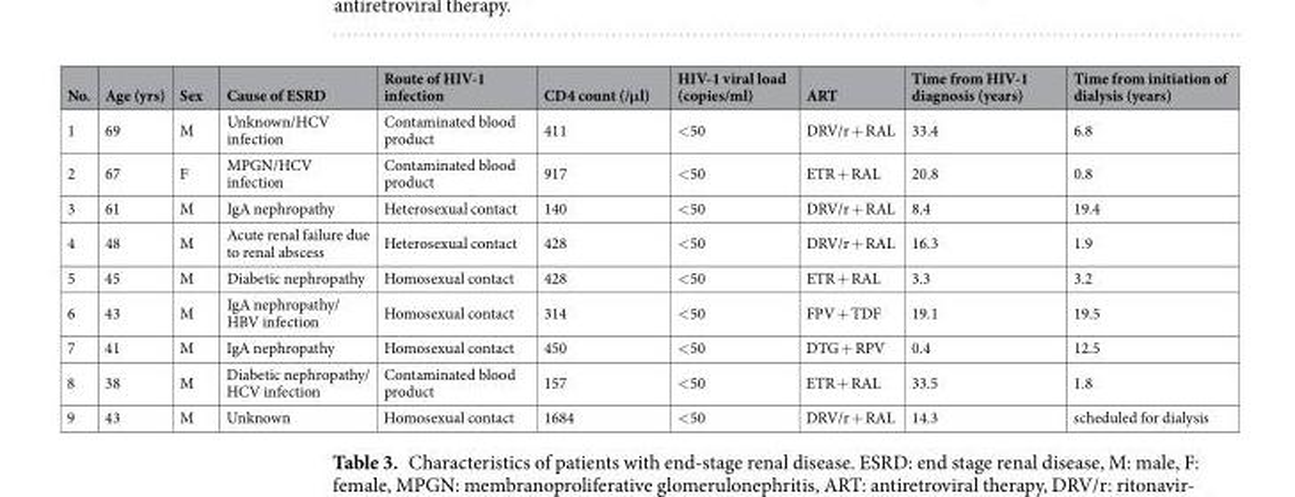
<table><thead><tr><td>No.</td><td>Age (yrs)</td><td>Sex</td><td>Cause of ESRD</td><td>Route of HIV-1 infection</td><td>CD4 count (/μl)</td><td>HIV-1 viral load (copies/ml)</td><td>ART</td><td>Time from HIV-1 diagnosis (years)</td><td>Time from initiation of dialysis (years)</td></tr></thead><tbody><tr><td>1</td><td>69</td><td>M</td><td>Unknown/HCV infection</td><td>Contaminated blood product</td><td>411</td><td>&lt;50</td><td>DRV/r + RAL</td><td>33.4</td><td>6.8</td></tr><tr><td>2</td><td>67</td><td>F</td><td>MPGN/HCV infection</td><td>Contaminated blood product</td><td>917</td><td>&lt;50</td><td>ETR + RAL</td><td>20.8</td><td>0.8</td></tr><tr><td>3</td><td>61</td><td>M</td><td>IgA nephropathy</td><td>Heterosexual contact</td><td>140</td><td>&lt;50</td><td>DRV/r + RAL</td><td>8.4</td><td>19.4</td></tr><tr><td>4</td><td>48</td><td>M</td><td>Acute renal failure due to renal abscess</td><td>Heterosexual contact</td><td>428</td><td>&lt;50</td><td>DRV/r + RAL</td><td>16.3</td><td>1.9</td></tr><tr><td>5</td><td>45</td><td>M</td><td>Diabetic nephropathy</td><td>Homosexual contact</td><td>428</td><td>&lt;50</td><td>ETR + RAL</td><td>3.3</td><td>3.2</td></tr><tr><td>6</td><td>43</td><td>M</td><td>IgA nephropathy/ HBV infection</td><td>Homosexual contact</td><td>314</td><td>&lt;50</td><td>FPV + TDF</td><td>19.1</td><td>19.5</td></tr><tr><td>7</td><td>41</td><td>M</td><td>IgA nephropathy</td><td>Homosexual contact</td><td>450</td><td>&lt;50</td><td>DTG + RPV</td><td>0.4</td><td>12.5</td></tr><tr><td>8</td><td>38</td><td>M</td><td>Diabetic nephropathy/ HCV infection</td><td>Contaminated blood product</td><td>157</td><td>&lt;50</td><td>ETR + RAL</td><td>33.5</td><td>1.8</td></tr><tr><td>9</td><td>43</td><td>M</td><td>Unknown</td><td>Homosexual contact</td><td>1684</td><td>&lt;50</td><td>DRV/r + RAL</td><td>14.3</td><td>scheduled for dialysis</td></tr></tbody></table>